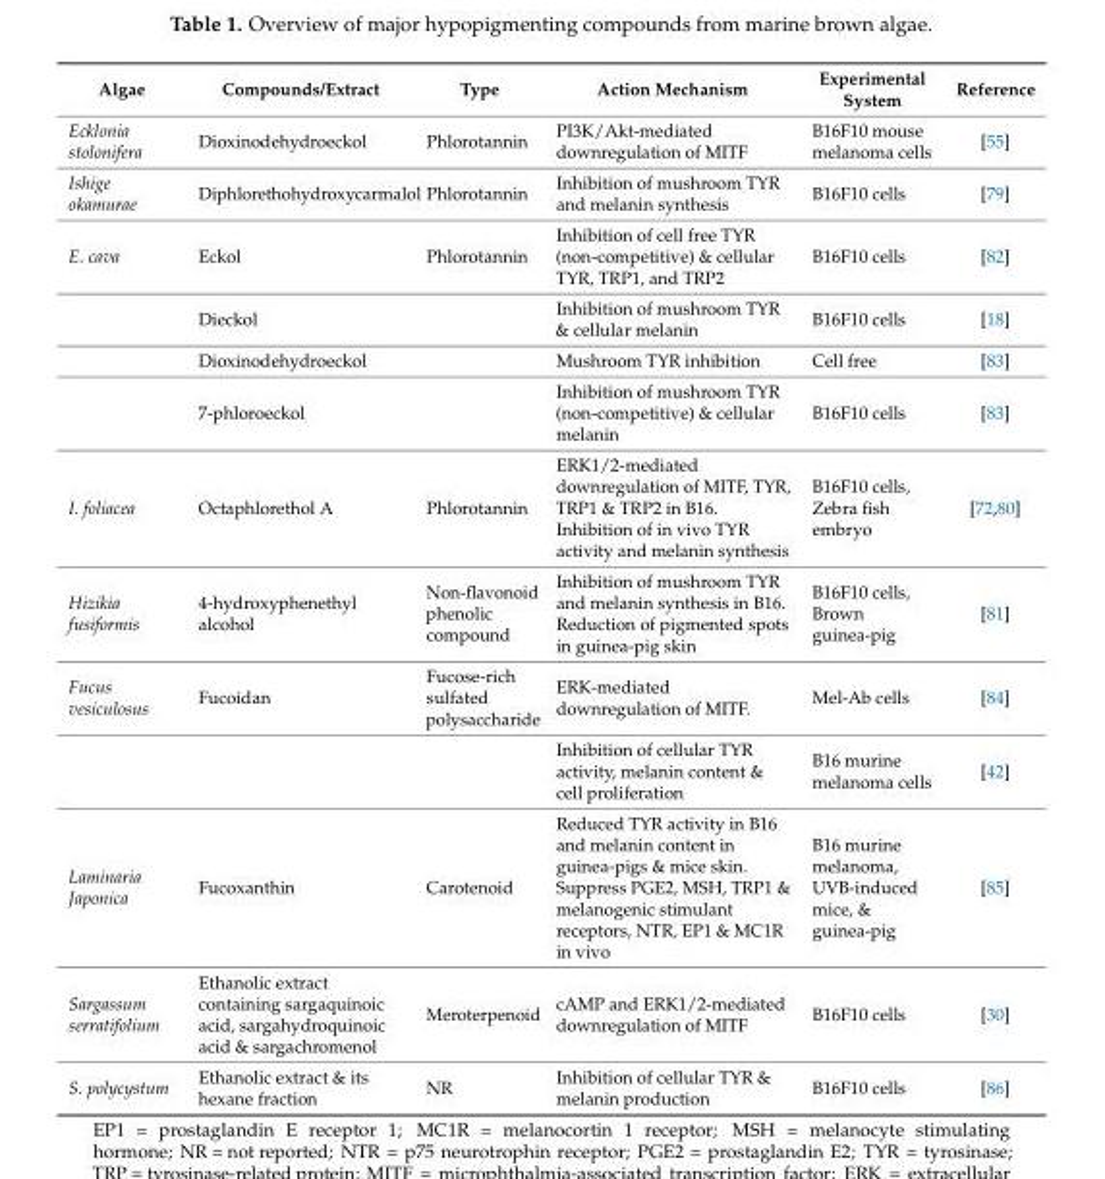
<table><thead><tr><td>Algae</td><td>Compounds/Extract</td><td>Type</td><td>Action Mechanism</td><td>Experimental System</td><td>Reference</td></tr></thead><tbody><tr><td>Ecklonia stolonifera</td><td>Dioxinodehydroeckol</td><td>Phlorotannin</td><td>PI3K/Akt-mediated downregulation of MITF</td><td>B16F10 mouse melanoma cells</td><td>[55]</td></tr><tr><td>Ishige okamurae</td><td>Diphlorethohydroxycarmalol</td><td>Phlorotannin</td><td>Inhibition of mushroom TYR and melanin synthesis</td><td>B16F10 cells</td><td>[79]</td></tr><tr><td rowspan="4">E. cava</td><td>Eckol</td><td>Phlorotannin</td><td>Inhibition of cell free TYR (non-competitive) &amp; cellular TYR, TRP1, and TRP2</td><td>B16F10 cells</td><td>[82]</td></tr><tr><td>Dieckol</td><td></td><td>Inhibition of mushroom TYR &amp; cellular melanin</td><td>B16F10 cells</td><td>[18]</td></tr><tr><td>Dioxinodehydroeckol</td><td></td><td>Mushroom TYR inhibition</td><td>Cell free</td><td>[83]</td></tr><tr><td>7-phloroeckol</td><td></td><td>Inhibition of mushroom TYR (non-competitive) &amp; cellular melanin</td><td>B16F10 cells</td><td>[83]</td></tr><tr><td>I. foliacea</td><td>Octaphlorethol A</td><td>Phlorotannin</td><td>ERK1/2-mediated downregulation of MITF, TYR, TRP1 &amp; TRP2 in B16. Inhibition of in vivo TYR activity and melanin synthesis</td><td>B16F10 cells, Zebra fish embryo</td><td>[72,80]</td></tr><tr><td>Hizikia fusiformis</td><td>4-hydroxyphenethyl alcohol</td><td>Non-flavonoid phenolic compound</td><td>Inhibition of mushroom TYR and melanin synthesis in B16. Reduction of pigmented spots in guinea-pig skin</td><td>B16F10 cells, Brown guinea-pig</td><td>[81]</td></tr><tr><td rowspan="2">Fucus vesiculosus</td><td>Fucoidan</td><td>Fucose-rich sulfated polysaccharide</td><td>ERK-mediated downregulation of MITF.</td><td>Mel-Ab cells</td><td>[84]</td></tr><tr><td></td><td></td><td>Inhibition of cellular TYR activity, melanin content &amp; cell proliferation</td><td>B16 murine melanoma cells</td><td>[42]</td></tr><tr><td>Laminaria Japonica</td><td>Fucoxanthin</td><td>Carotenoid</td><td>Reduced TYR activity in B16 and melanin content in guinea-pigs &amp; mice skin. Suppress PGE2, MSH, TRP1 &amp; melanogenic stimulant receptors, NTR, EP1 &amp; MC1R in vivo</td><td>B16 murine melanoma, UVB-induced mice, &amp; guinea-pig</td><td>[85]</td></tr><tr><td>Sargassum serratifolium</td><td>Ethanolic extract containing sargaquinoic acid, sargahydroquinoic acid &amp; sargachromenol</td><td>Meroterpenoid</td><td>cAMP and ERK1/2-mediated downregulation of MITF</td><td>B16F10 cells</td><td>[30]</td></tr><tr><td>S. polycystum</td><td>Ethanolic extract &amp; its hexane fraction</td><td>NR</td><td>Inhibition of cellular TYR &amp; melanin production</td><td>B16F10 cells</td><td>[86]</td></tr></tbody></table>